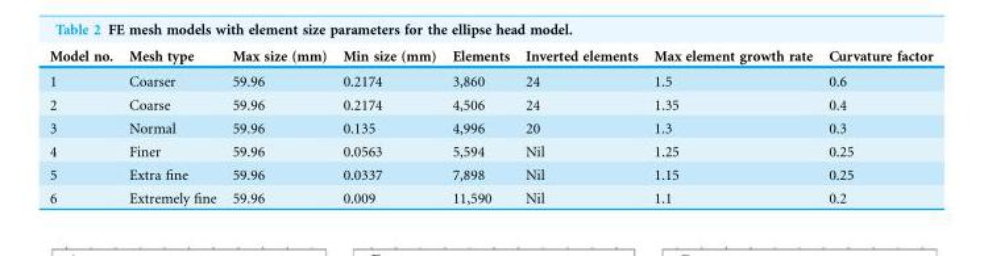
<table><thead><tr><td>Model no.</td><td>Mesh type</td><td>Max size (mm)</td><td>Min size (mm)</td><td>Elements</td><td>Inverted elements</td><td>Max element growth rate</td><td>Curvature factor</td></tr></thead><tbody><tr><td>1</td><td>Coarser</td><td>59.96</td><td>0.2174</td><td>3,860</td><td>24</td><td>1.5</td><td>0.6</td></tr><tr><td>2</td><td>Coarse</td><td>59.96</td><td>0.2174</td><td>4,506</td><td>24</td><td>1.35</td><td>0.4</td></tr><tr><td>3</td><td>Normal</td><td>59.96</td><td>0.135</td><td>4,996</td><td>20</td><td>1.3</td><td>0.3</td></tr><tr><td>4</td><td>Finer</td><td>59.96</td><td>0.0563</td><td>5,594</td><td>Nil</td><td>1.25</td><td>0.25</td></tr><tr><td>5</td><td>Extra fine</td><td>59.96</td><td>0.0337</td><td>7,898</td><td>Nil</td><td>1.15</td><td>0.25</td></tr><tr><td>6</td><td>Extremely fine</td><td>59.96</td><td>0.009</td><td>11,590</td><td>Nil</td><td>1.1</td><td>0.2</td></tr></tbody></table>